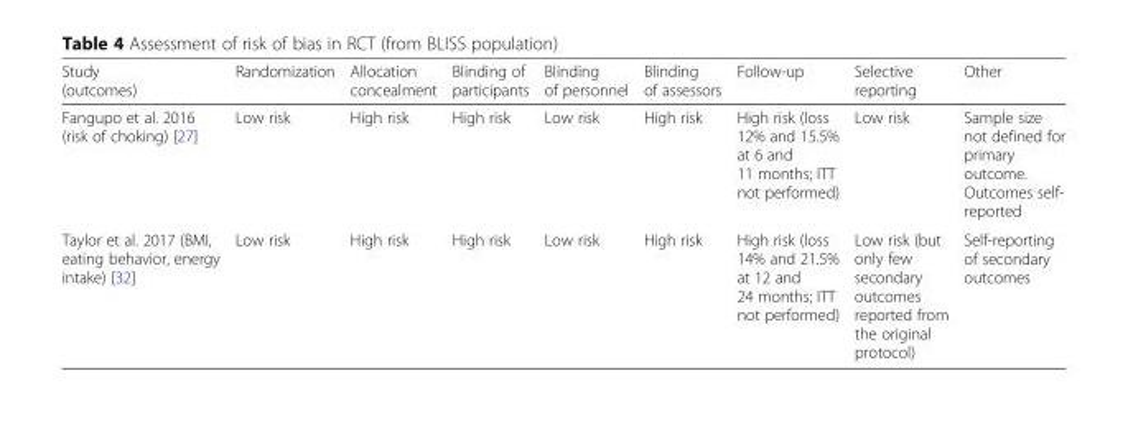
<table><thead><tr><td>Study (outcomes)</td><td>Randomization</td><td>Allocation concealment</td><td>Blinding of participants</td><td>Blinding of personnel</td><td>Blinding of assessors</td><td>Follow-up</td><td>Selective reporting</td><td>Other</td></tr></thead><tbody><tr><td>Fangupo et al. 2016 (risk of choking) [27]</td><td>Low risk</td><td>High risk</td><td>High risk</td><td>Low risk</td><td>High risk</td><td>High risk (loss 12% and 15.5% at 6 and 11 months; ITT not performed)</td><td>Low risk</td><td>Sample size not defined for primary outcome. Outcomes self- reported</td></tr><tr><td>Taylor et al. 2017 (BMI, eating behavior, energy intake) [32]</td><td>Low risk</td><td>High risk</td><td>High risk</td><td>Low risk</td><td>High risk</td><td>High risk (loss 14% and 21.5% at 12 and 24 months; ITT not performed)</td><td>Low risk (but only few secondary outcomes reported from the original protocol)</td><td>Self-reporting of secondary outcomes</td></tr></tbody></table>